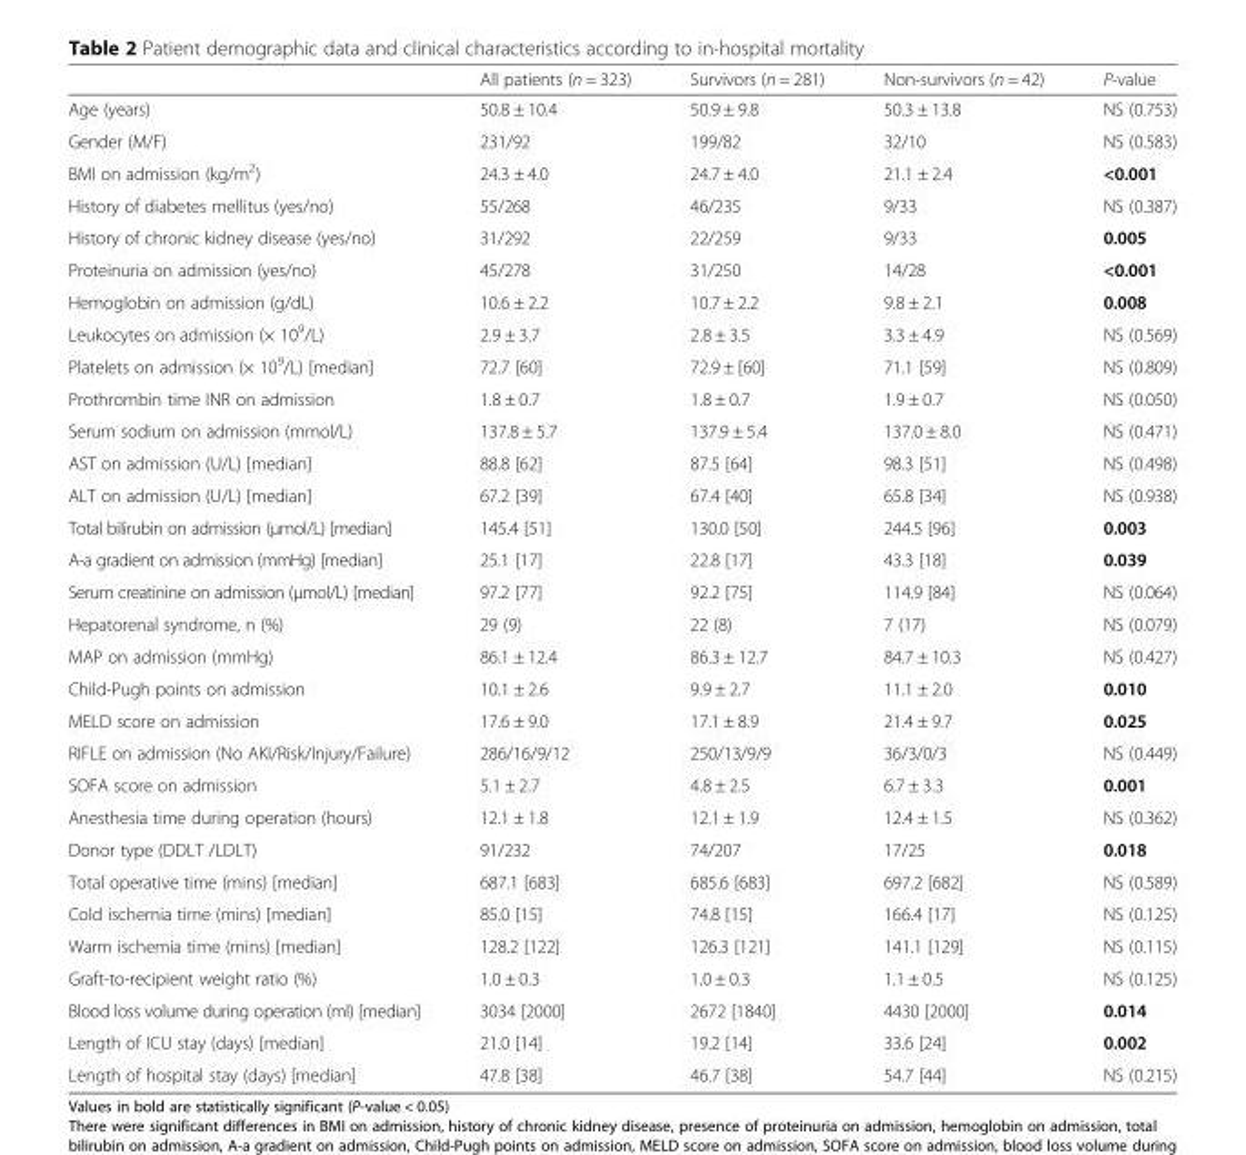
<table><thead><tr><td></td><td>All patients (n = 323)</td><td>Survivors (n = 281)</td><td>Non-survivors (n = 42)</td><td>P-value</td></tr></thead><tbody><tr><td>Age (years)</td><td>50.8 ± 10.4</td><td>50.9 ± 9.8</td><td>50.3 ± 13.8</td><td>NS (0.753)</td></tr><tr><td>Gender (M/F)</td><td>231/92</td><td>199/82</td><td>32/10</td><td>NS (0.583)</td></tr><tr><td>BMI on admission (kg/m<sup>2</sup>)</td><td>24.3 ± 4.0</td><td>24.7 ± 4.0</td><td>21.1 ± 2.4</td><td>&lt;0.001</td></tr><tr><td>History of diabetes mellitus (yes/no)</td><td>55/268</td><td>46/235</td><td>9/33</td><td>NS (0.387)</td></tr><tr><td>History of chronic kidney disease (yes/no)</td><td>31/292</td><td>22/259</td><td>9/33</td><td>0.005</td></tr><tr><td>Proteinuria on admission (yes/no)</td><td>45/278</td><td>31/250</td><td>14/28</td><td>&lt;0.001</td></tr><tr><td>Hemoglobin on admission (g/dL)</td><td>10.6 ± 2.2</td><td>10.7 ± 2.2</td><td>9.8 ± 2.1</td><td>0.008</td></tr><tr><td>Leukocytes on admission (× 10<sup>9</sup>/L)</td><td>2.9 ± 3.7</td><td>2.8 ± 3.5</td><td>3.3 ± 4.9</td><td>NS (0.569)</td></tr><tr><td>Platelets on admission (× 10<sup>9</sup>/L) [median]</td><td>72.7 [60]</td><td>72.9 ± [60]</td><td>71.1 [59]</td><td>NS (0.809)</td></tr><tr><td>Prothrombin time INR on admission</td><td>1.8 ± 0.7</td><td>1.8 ± 0.7</td><td>1.9 ± 0.7</td><td>NS (0.050)</td></tr><tr><td>Serum sodium on admission (mmol/L)</td><td>137.8 ± 5.7</td><td>137.9 ± 5.4</td><td>137.0 ± 8.0</td><td>NS (0.471)</td></tr><tr><td>AST on admission (U/L) [median]</td><td>88.8 [62]</td><td>87.5 [64]</td><td>98.3 [51]</td><td>NS (0.498)</td></tr><tr><td>ALT on admission (U/L) [median]</td><td>67.2 [39]</td><td>67.4 [40]</td><td>65.8 [34]</td><td>NS (0.938)</td></tr><tr><td>Total bilirubin on admission (μmol/L) [median]</td><td>145.4 [51]</td><td>130.0 [50]</td><td>244.5 [96]</td><td>0.003</td></tr><tr><td>A-a gradient on admission (mmHg) [median]</td><td>25.1 [17]</td><td>22.8 [17]</td><td>43.3 [18]</td><td>0.039</td></tr><tr><td>Serum creatinine on admission (μmol/L) [median]</td><td>97.2 [77]</td><td>92.2 [75]</td><td>114.9 [84]</td><td>NS (0.064)</td></tr><tr><td>Hepatorenal syndrome, n (%)</td><td>29 (9)</td><td>22 (8)</td><td>7 (17)</td><td>NS (0.079)</td></tr><tr><td>MAP on admission (mmHg)</td><td>86.1 ± 12.4</td><td>86.3 ± 12.7</td><td>84.7 ± 10.3</td><td>NS (0.427)</td></tr><tr><td>Child-Pugh points on admission</td><td>10.1 ± 2.6</td><td>9.9 ± 2.7</td><td>11.1 ± 2.0</td><td>0.010</td></tr><tr><td>MELD score on admission</td><td>17.6 ± 9.0</td><td>17.1 ± 8.9</td><td>21.4 ± 9.7</td><td>0.025</td></tr><tr><td>RIFLE on admission (No AKI/Risk/Injury/Failure)</td><td>286/16/9/12</td><td>250/13/9/9</td><td>36/3/0/3</td><td>NS (0.449)</td></tr><tr><td>SOFA score on admission</td><td>5.1 ± 2.7</td><td>4.8 ± 2.5</td><td>6.7 ± 3.3</td><td>0.001</td></tr><tr><td>Anesthesia time during operation (hours)</td><td>12.1 ± 1.8</td><td>12.1 ± 1.9</td><td>12.4 ± 1.5</td><td>NS (0.362)</td></tr><tr><td>Donor type (DDLT /LDLT)</td><td>91/232</td><td>74/207</td><td>17/25</td><td>0.018</td></tr><tr><td>Total operative time (mins) [median]</td><td>687.1 [683]</td><td>685.6 [683]</td><td>697.2 [682]</td><td>NS (0.589)</td></tr><tr><td>Cold ischemia time (mins) [median]</td><td>85.0 [15]</td><td>74.8 [15]</td><td>166.4 [17]</td><td>NS (0.125)</td></tr><tr><td>Warm ischemia time (mins) [median]</td><td>128.2 [122]</td><td>126.3 [121]</td><td>141.1 [129]</td><td>NS (0.115)</td></tr><tr><td>Graft-to-recipient weight ratio (%)</td><td>1.0 ± 0.3</td><td>1.0 ± 0.3</td><td>1.1 ± 0.5</td><td>NS (0.125)</td></tr><tr><td>Blood loss volume during operation (ml) [median]</td><td>3034 [2000]</td><td>2672 [1840]</td><td>4430 [2000]</td><td>0.014</td></tr><tr><td>Length of ICU stay (days) [median]</td><td>21.0 [14]</td><td>19.2 [14]</td><td>33.6 [24]</td><td>0.002</td></tr><tr><td>Length of hospital stay (days) [median]</td><td>47.8 [38]</td><td>46.7 [38]</td><td>54.7 [44]</td><td>NS (0.215)</td></tr></tbody></table>